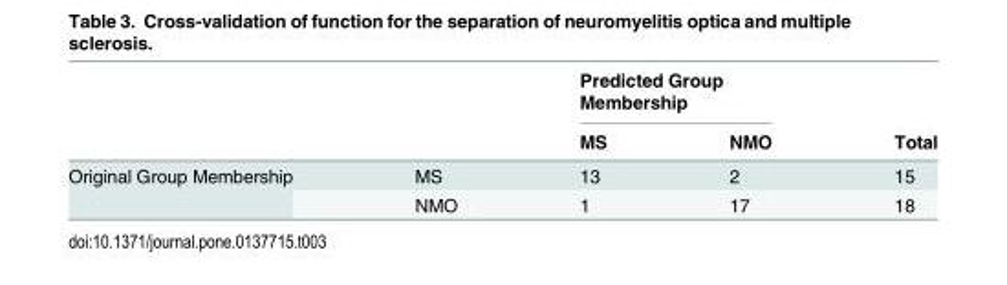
<table><thead><tr><td rowspan="2"></td><td rowspan="2"></td><td colspan="2">Predicted Group Membership</td><td rowspan="2">Total</td></tr><tr><td>MS</td><td>NMO</td></tr></thead><tbody><tr><td rowspan="2">Original Group Membership</td><td>MS</td><td>13</td><td>2</td><td>15</td></tr><tr><td>NMO</td><td>1</td><td>17</td><td>18</td></tr></tbody></table>